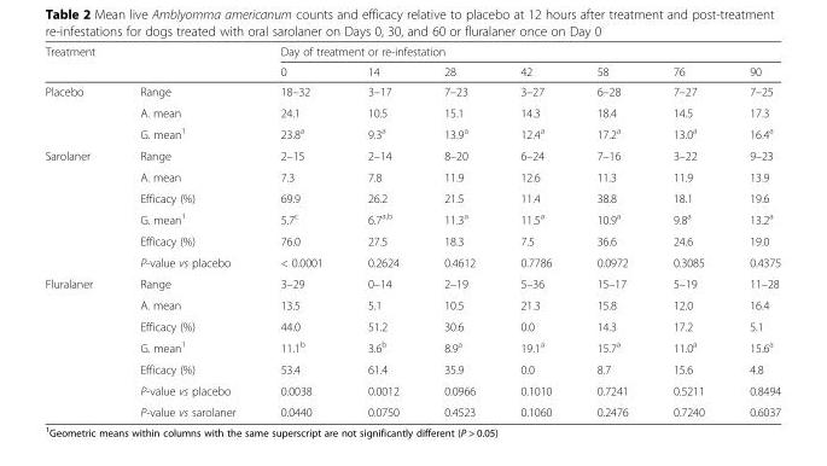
<table><thead><tr><td rowspan="2">Treatment</td><td rowspan="2"></td><td colspan="7">Day of treatment or re-infestation</td></tr><tr><td>0</td><td>14</td><td>28</td><td>42</td><td>58</td><td>76</td><td>90</td></tr></thead><tbody><tr><td rowspan="3">Placebo</td><td>Range</td><td>18–32</td><td>3–17</td><td>7–23</td><td>3–27</td><td>6–28</td><td>7–27</td><td>7–25</td></tr><tr><td>A. mean</td><td>24.1</td><td>10.5</td><td>15.1</td><td>14.3</td><td>18.4</td><td>14.5</td><td>17.3</td></tr><tr><td>G. mean<sup>1</sup></td><td>23.8<sup>a</sup></td><td>9.3<sup>a</sup></td><td>13.9<sup>a</sup></td><td>12.4<sup>a</sup></td><td>17.2<sup>a</sup></td><td>13.0<sup>a</sup></td><td>16.4<sup>a</sup></td></tr><tr><td rowspan="6">Sarolaner</td><td>Range</td><td>2–15</td><td>2–14</td><td>8–20</td><td>6–24</td><td>7–16</td><td>3–22</td><td>9–23</td></tr><tr><td>A. mean</td><td>7.3</td><td>7.8</td><td>11.9</td><td>12.6</td><td>11.3</td><td>11.9</td><td>13.9</td></tr><tr><td>Efficacy (%)</td><td>69.9</td><td>26.2</td><td>21.5</td><td>11.4</td><td>38.8</td><td>18.1</td><td>19.6</td></tr><tr><td>G. mean<sup>1</sup></td><td>5.7<sup>c</sup></td><td>6.7<sup>a,b</sup></td><td>11.3<sup>a</sup></td><td>11.5<sup>a</sup></td><td>10.9<sup>a</sup></td><td>9.8<sup>a</sup></td><td>13.2<sup>a</sup></td></tr><tr><td>Efficacy (%)</td><td>76.0</td><td>27.5</td><td>18.3</td><td>7.5</td><td>36.6</td><td>24.6</td><td>19.0</td></tr><tr><td>P-value vs placebo</td><td>&lt; 0.0001</td><td>0.2624</td><td>0.4612</td><td>0.7786</td><td>0.0972</td><td>0.3085</td><td>0.4375</td></tr><tr><td rowspan="7">Fluralaner</td><td>Range</td><td>3–29</td><td>0–14</td><td>2–19</td><td>5–36</td><td>15–17</td><td>5–19</td><td>11–28</td></tr><tr><td>A. mean</td><td>13.5</td><td>5.1</td><td>10.5</td><td>21.3</td><td>15.8</td><td>12.0</td><td>16.4</td></tr><tr><td>Efficacy (%)</td><td>44.0</td><td>51.2</td><td>30.6</td><td>0.0</td><td>14.3</td><td>17.2</td><td>5.1</td></tr><tr><td>G. mean<sup>1</sup></td><td>11.1<sup>b</sup></td><td>3.6<sup>b</sup></td><td>8.9<sup>a</sup></td><td>19.1<sup>a</sup></td><td>15.7<sup>a</sup></td><td>11.0<sup>a</sup></td><td>15.6<sup>a</sup></td></tr><tr><td>Efficacy (%)</td><td>53.4</td><td>61.4</td><td>35.9</td><td>0.0</td><td>8.7</td><td>15.6</td><td>4.8</td></tr><tr><td>P-value vs placebo</td><td>0.0038</td><td>0.0012</td><td>0.0966</td><td>0.1010</td><td>0.7241</td><td>0.5211</td><td>0.8494</td></tr><tr><td>P-value vs sarolaner</td><td>0.0440</td><td>0.0750</td><td>0.4523</td><td>0.1060</td><td>0.2476</td><td>0.7240</td><td>0.6037</td></tr></tbody></table>